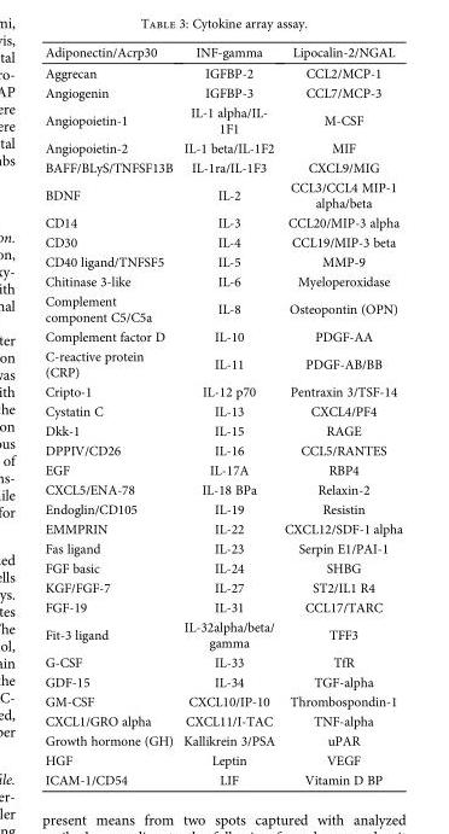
<table><thead><tr><td>Adiponectin/Acrp30</td><td>INF-gamma</td><td>Lipocalin-2/NGAL</td></tr></thead><tbody><tr><td>Aggrecan</td><td>IGFBP-2</td><td>CCL2/MCP-1</td></tr><tr><td>Angiogenin</td><td>IGFBP-3</td><td>CCL7/MCP-3</td></tr><tr><td>Angiopoietin-1</td><td>IL-1 alpha/IL- 1F1</td><td>M-CSF</td></tr><tr><td>Angiopoietin-2</td><td>IL-1 beta/IL-1F2</td><td>MIF</td></tr><tr><td>BAFF/BLyS/TNFSF13B</td><td>IL-1ra/IL-1F3</td><td>CXCL9/MIG</td></tr><tr><td>BDNF</td><td>IL-2</td><td>CCL3/CCL4 MIP-1 alpha/beta</td></tr><tr><td>CD14</td><td>IL-3</td><td>CCL20/MIP-3 alpha</td></tr><tr><td>CD30</td><td>IL-4</td><td>CCL19/MIP-3 beta</td></tr><tr><td>CD40 ligand/TNFSF5</td><td>IL-5</td><td>MMP-9</td></tr><tr><td>Chitinase 3-like</td><td>IL-6</td><td>Myeloperoxidase</td></tr><tr><td>Complement component C5/C5a</td><td>IL-8</td><td>Osteopontin (OPN)</td></tr><tr><td>Complement factor D</td><td>IL-10</td><td>PDGF-AA</td></tr><tr><td>C-reactive protein (CRP)</td><td>IL-11</td><td>PDGF-AB/BB</td></tr><tr><td>Cripto-1</td><td>IL-12 p70</td><td>Pentraxin 3/TSF-14</td></tr><tr><td>Cystatin C</td><td>IL-13</td><td>CXCL4/PF4</td></tr><tr><td>Dkk-1</td><td>IL-15</td><td>RAGE</td></tr><tr><td>DPPIV/CD26</td><td>IL-16</td><td>CCL5/RANTES</td></tr><tr><td>EGF</td><td>IL-17A</td><td>RBP4</td></tr><tr><td>CXCL5/ENA-78</td><td>IL-18 BPa</td><td>Relaxin-2</td></tr><tr><td>Endoglin/CD105</td><td>IL-19</td><td>Resistin</td></tr><tr><td>EMMPRIN</td><td>IL-22</td><td>CXCL12/SDF-1 alpha</td></tr><tr><td>Fas ligand</td><td>IL-23</td><td>Serpin E1/PAI-1</td></tr><tr><td>FGF basic</td><td>IL-24</td><td>SHBG</td></tr><tr><td>KGF/FGF-7</td><td>IL-27</td><td>ST2/IL1 R4</td></tr><tr><td>FGF-19</td><td>IL-31</td><td>CCL17/TARC</td></tr><tr><td>Fit-3 ligand</td><td>IL-32alpha/beta/ gamma</td><td>TFF3</td></tr><tr><td>G-CSF</td><td>IL-33</td><td>TfR</td></tr><tr><td>GDF-15</td><td>IL-34</td><td>TGF-alpha</td></tr><tr><td>GM-CSF</td><td>CXCL10/IP-10</td><td>Thrombospondin-1</td></tr><tr><td>CXCL1/GRO alpha</td><td>CXCL11/I-TAC</td><td>TNF-alpha</td></tr><tr><td>Growth hormone (GH)</td><td>Kallikrein 3/PSA</td><td>uPAR</td></tr><tr><td>HGF</td><td>Leptin</td><td>VEGF</td></tr><tr><td>ICAM-1/CD54</td><td>LIF</td><td>Vitamin D BP</td></tr></tbody></table>